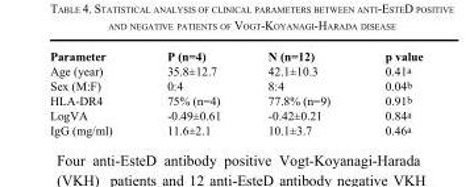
<table><tbody><tr><td>Parameter</td><td>P (n=4)</td><td>N (n=12)</td><td>p value</td></tr><tr><td>Age (year)</td><td>35.8±12.7</td><td>42.1±10.3</td><td>0.41<sup>a</sup></td></tr><tr><td>Sex (M:F)</td><td>0:4</td><td>8:4</td><td>0.04<sup>b</sup></td></tr><tr><td>HLA-DR4</td><td>75% (n=4)</td><td>77.8% (n=9)</td><td>0.91<sup>b</sup></td></tr><tr><td>LogVA</td><td>-0.49±0.61</td><td>-0.42±0.21</td><td>0.84<sup>a</sup></td></tr><tr><td>IgG (mg/ml)</td><td>11.6±2.1</td><td>10.1±3.7</td><td>0.46<sup>a</sup></td></tr></tbody></table>